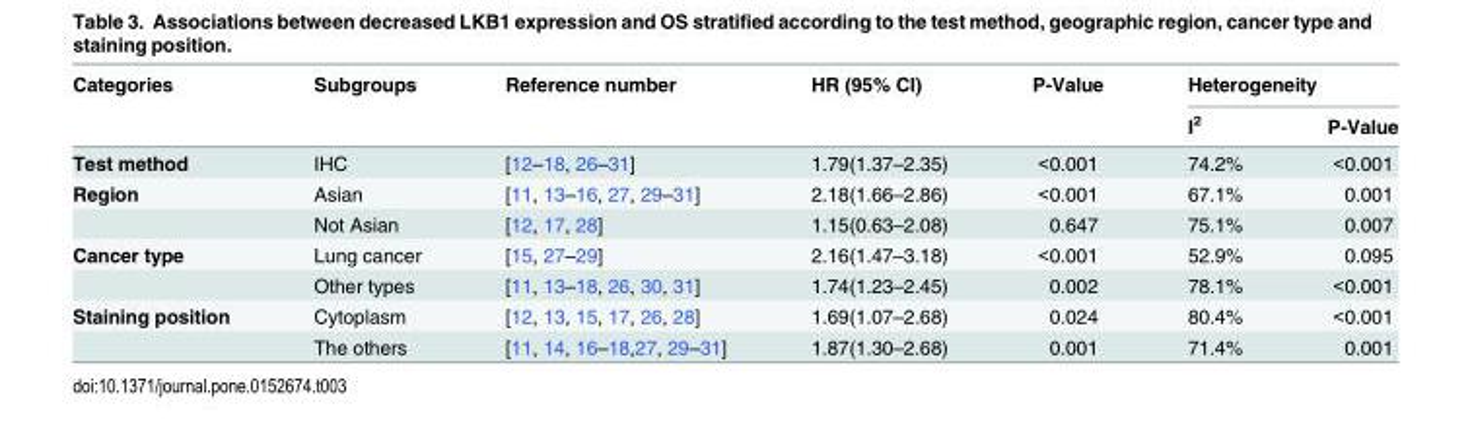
<table><thead><tr><td rowspan="2">Categories</td><td rowspan="2">Subgroups</td><td rowspan="2">Reference number</td><td rowspan="2">HR (95% CI)</td><td rowspan="2">P-Value</td><td colspan="2">Heterogeneity</td></tr><tr><td>I<sup>2</sup></td><td>P-Value</td></tr></thead><tbody><tr><td>Test method</td><td>IHC</td><td>[12–18, 26–31]</td><td>1.79(1.37–2.35)</td><td>&lt;0.001</td><td>74.2%</td><td>&lt;0.001</td></tr><tr><td rowspan="2">Region</td><td>Asian</td><td>[11, 13–16, 27, 29–31]</td><td>2.18(1.66–2.86)</td><td>&lt;0.001</td><td>67.1%</td><td>0.001</td></tr><tr><td>Not Asian</td><td>[12, 17, 28]</td><td>1.15(0.63–2.08)</td><td>0.647</td><td>75.1%</td><td>0.007</td></tr><tr><td rowspan="2">Cancer type</td><td>Lung cancer</td><td>[15, 27–29]</td><td>2.16(1.47–3.18)</td><td>&lt;0.001</td><td>52.9%</td><td>0.095</td></tr><tr><td>Other types</td><td>[11, 13–18, 26, 30, 31]</td><td>1.74(1.23–2.45)</td><td>0.002</td><td>78.1%</td><td>&lt;0.001</td></tr><tr><td rowspan="2">Staining position</td><td>Cytoplasm</td><td>[12, 13, 15, 17, 26, 28]</td><td>1.69(1.07–2.68)</td><td>0.024</td><td>80.4%</td><td>&lt;0.001</td></tr><tr><td>The others</td><td>[11, 14, 16–18,27, 29–31]</td><td>1.87(1.30–2.68)</td><td>0.001</td><td>71.4%</td><td>0.001</td></tr></tbody></table>